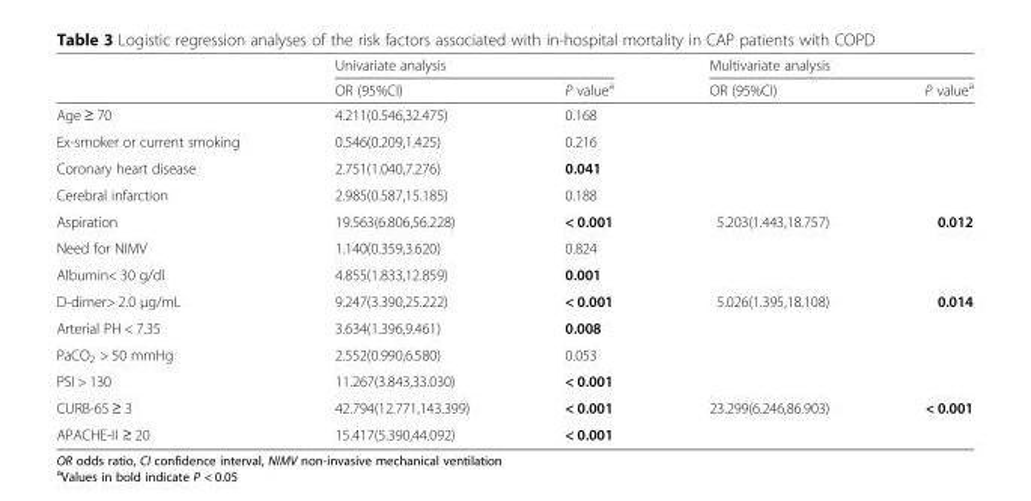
<table><thead><tr><td rowspan="2"></td><td colspan="2">Univariate analysis</td><td colspan="2">Multivariate analysis</td></tr><tr><td>OR (95%CI)</td><td>P value<sup>a</sup></td><td>OR (95%CI)</td><td>P value<sup>a</sup></td></tr></thead><tbody><tr><td>Age ≥ 70</td><td>4.211(0.546,32.475)</td><td>0.168</td><td></td><td></td></tr><tr><td>Ex-smoker or current smoking</td><td>0.546(0.209,1.425)</td><td>0.216</td><td></td><td></td></tr><tr><td>Coronary heart disease</td><td>2.751(1.040,7.276)</td><td>0.041</td><td></td><td></td></tr><tr><td>Cerebral infarction</td><td>2.985(0.587,15.185)</td><td>0.188</td><td></td><td></td></tr><tr><td>Aspiration</td><td>19.563(6.806,56.228)</td><td>&lt; 0.001</td><td>5.203(1.443,18.757)</td><td>0.012</td></tr><tr><td>Need for NIMV</td><td>1.140(0.359,3.620)</td><td>0.824</td><td></td><td></td></tr><tr><td>Albumin&lt; 30 g/dl</td><td>4.855(1.833,12.859)</td><td>0.001</td><td></td><td></td></tr><tr><td>D-dimer&gt; 2.0 μg/mL</td><td>9.247(3.390,25.222)</td><td>&lt; 0.001</td><td>5.026(1.395,18.108)</td><td>0.014</td></tr><tr><td>Arterial PH &lt; 7.35</td><td>3.634(1.396,9.461)</td><td>0.008</td><td></td><td></td></tr><tr><td>PaCO<sub>2</sub> &gt; 50 mmHg</td><td>2.552(0.990,6.580)</td><td>0.053</td><td></td><td></td></tr><tr><td>PSI &gt; 130</td><td>11.267(3.843,33.030)</td><td>&lt; 0.001</td><td></td><td></td></tr><tr><td>CURB-65 ≥ 3</td><td>42.794(12.771,143.399)</td><td>&lt; 0.001</td><td>23.299(6.246,86.903)</td><td>&lt; 0.001</td></tr><tr><td>APACHE-II ≥ 20</td><td>15.417(5.390,44.092)</td><td>&lt; 0.001</td><td></td><td></td></tr></tbody></table>